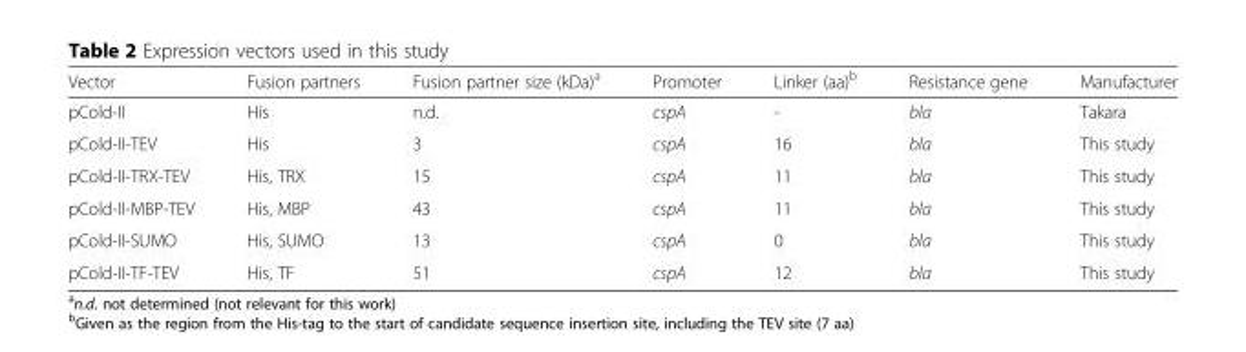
<table><thead><tr><td>Vector</td><td>Fusion partners</td><td>Fusion partner size (kDa)<sup>a</sup></td><td>Promoter</td><td>Linker (aa)<sup>b</sup></td><td>Resistance gene</td><td>Manufacturer</td></tr></thead><tbody><tr><td>pCold-II</td><td>His</td><td>n.d.</td><td>cspA</td><td>-</td><td>bla</td><td>Takara</td></tr><tr><td>pCold-II-TEV</td><td>His</td><td>3</td><td>cspA</td><td>16</td><td>bla</td><td>This study</td></tr><tr><td>pCold-II-TRX-TEV</td><td>His, TRX</td><td>15</td><td>cspA</td><td>11</td><td>bla</td><td>This study</td></tr><tr><td>pCold-II-MBP-TEV</td><td>His, MBP</td><td>43</td><td>cspA</td><td>11</td><td>bla</td><td>This study</td></tr><tr><td>pCold-II-SUMO</td><td>His, SUMO</td><td>13</td><td>cspA</td><td>0</td><td>bla</td><td>This study</td></tr><tr><td>pCold-II-TF-TEV</td><td>His, TF</td><td>51</td><td>cspA</td><td>12</td><td>bla</td><td>This study</td></tr></tbody></table>